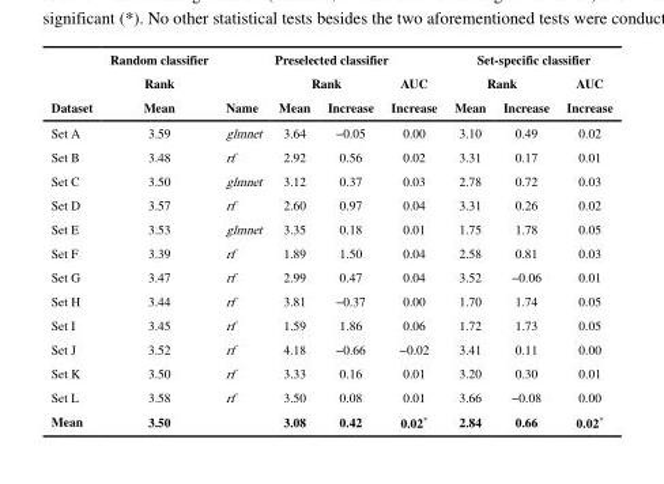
<table><thead><tr><td rowspan="3">Dataset</td><td rowspan="3">Random classifier Rank Mean</td><td colspan="4">Preselected classifier</td><td colspan="3">Set-specific classifier</td></tr><tr><td rowspan="2">Name</td><td colspan="2">Rank</td><td rowspan="2">AUC Increase</td><td colspan="2">Rank</td><td rowspan="2">AUC Increase</td></tr><tr><td>Mean</td><td>Increase</td><td>Mean</td><td>Increase</td></tr></thead><tbody><tr><td>Set A</td><td>3.59</td><td>glmnet</td><td>3.64</td><td>−0.05</td><td>0.00</td><td>3.10</td><td>0.49</td><td>0.02</td></tr><tr><td>Set B</td><td>3.48</td><td>rf</td><td>2.92</td><td>0.56</td><td>0.02</td><td>3.31</td><td>0.17</td><td>0.01</td></tr><tr><td>Set C</td><td>3.50</td><td>glmnet</td><td>3.12</td><td>0.37</td><td>0.03</td><td>2.78</td><td>0.72</td><td>0.03</td></tr><tr><td>Set D</td><td>3.57</td><td>rf</td><td>2.60</td><td>0.97</td><td>0.04</td><td>3.31</td><td>0.26</td><td>0.02</td></tr><tr><td>Set E</td><td>3.53</td><td>glmnet</td><td>3.35</td><td>0.18</td><td>0.01</td><td>1.75</td><td>1.78</td><td>0.05</td></tr><tr><td>Set F</td><td>3.39</td><td>rf</td><td>1.89</td><td>1.50</td><td>0.04</td><td>2.58</td><td>0.81</td><td>0.03</td></tr><tr><td>Set G</td><td>3.47</td><td>rf</td><td>2.99</td><td>0.47</td><td>0.04</td><td>3.52</td><td>−0.06</td><td>0.01</td></tr><tr><td>Set H</td><td>3.44</td><td>rf</td><td>3.81</td><td>−0.37</td><td>0.00</td><td>1.70</td><td>1.74</td><td>0.05</td></tr><tr><td>Set I</td><td>3.45</td><td>rf</td><td>1.59</td><td>1.86</td><td>0.06</td><td>1.72</td><td>1.73</td><td>0.05</td></tr><tr><td>Set J</td><td>3.52</td><td>rf</td><td>4.18</td><td>−0.66</td><td>−0.02</td><td>3.41</td><td>0.11</td><td>0.00</td></tr><tr><td>Set K</td><td>3.50</td><td>rf</td><td>3.33</td><td>0.16</td><td>0.01</td><td>3.20</td><td>0.30</td><td>0.01</td></tr><tr><td>Set L</td><td>3.58</td><td>rf</td><td>3.50</td><td>0.08</td><td>0.01</td><td>3.66</td><td>−0.08</td><td>0.00</td></tr><tr><td>Mean</td><td>3.50</td><td></td><td>3.08</td><td>0.42</td><td>0.02*</td><td>2.84</td><td>0.66</td><td>0.02*</td></tr></tbody></table>